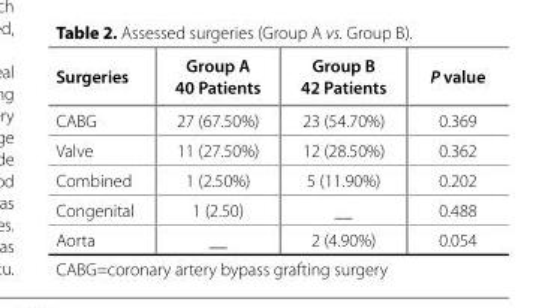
<table><thead><tr><td>Surgeries</td><td>Group A 40 Patients</td><td>Group B 42 Patients</td><td>P value</td></tr></thead><tbody><tr><td>CABG</td><td>27 (67.50%)</td><td>23 (54.70%)</td><td>0.369</td></tr><tr><td>Valve</td><td>11 (27.50%)</td><td>12 (28.50%)</td><td>0.362</td></tr><tr><td>Combined</td><td>1 (2.50%)</td><td>5 (11.90%)</td><td>0.202</td></tr><tr><td>Congenital</td><td>1 (2.50)</td><td>__</td><td>0.488</td></tr><tr><td>Aorta</td><td>__</td><td>2 (4.90%)</td><td>0.054</td></tr></tbody></table>